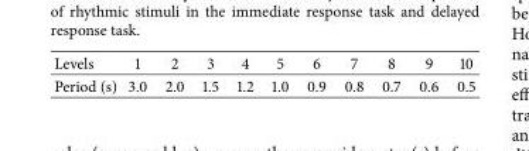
<table><tbody><tr><td>Levels</td><td>1</td><td>2</td><td>3</td><td>4</td><td>5</td><td>6</td><td>7</td><td>8</td><td>9</td><td>10</td></tr><tr><td>Period (s)</td><td>3.0</td><td>2.0</td><td>1.5</td><td>1.2</td><td>1.0</td><td>0.9</td><td>0.8</td><td>0.7</td><td>0.6</td><td>0.5</td></tr></tbody></table>